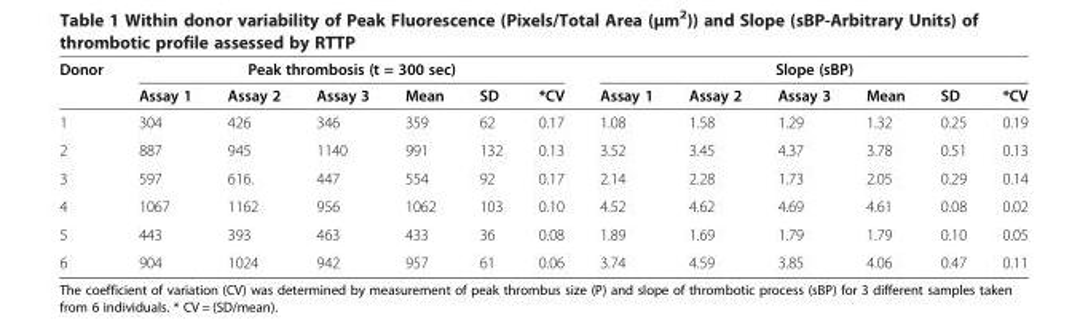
<table><thead><tr><td rowspan="2">Donor</td><td colspan="6">Peak thrombosis (t = 300 sec)</td><td colspan="6">Slope (sBP)</td></tr><tr><td>Assay 1</td><td>Assay 2</td><td>Assay 3</td><td>Mean</td><td>SD</td><td>*CV</td><td>Assay 1</td><td>Assay 2</td><td>Assay 3</td><td>Mean</td><td>SD</td><td>*CV</td></tr></thead><tbody><tr><td>1</td><td>304</td><td>426</td><td>346</td><td>359</td><td>62</td><td>0.17</td><td>1.08</td><td>1.58</td><td>1.29</td><td>1.32</td><td>0.25</td><td>0.19</td></tr><tr><td>2</td><td>887</td><td>945</td><td>1140</td><td>991</td><td>132</td><td>0.13</td><td>3.52</td><td>3.45</td><td>4.37</td><td>3.78</td><td>0.51</td><td>0.13</td></tr><tr><td>3</td><td>597</td><td>616.</td><td>447</td><td>554</td><td>92</td><td>0.17</td><td>2.14</td><td>2.28</td><td>1.73</td><td>2.05</td><td>0.29</td><td>0.14</td></tr><tr><td>4</td><td>1067</td><td>1162</td><td>956</td><td>1062</td><td>103</td><td>0.10</td><td>4.52</td><td>4.62</td><td>4.69</td><td>4.61</td><td>0.08</td><td>0.02</td></tr><tr><td>5</td><td>443</td><td>393</td><td>463</td><td>433</td><td>36</td><td>0.08</td><td>1.89</td><td>1.69</td><td>1.79</td><td>1.79</td><td>0.10</td><td>0.05</td></tr><tr><td>6</td><td>904</td><td>1024</td><td>942</td><td>957</td><td>61</td><td>0.06</td><td>3.74</td><td>4.59</td><td>3.85</td><td>4.06</td><td>0.47</td><td>0.11</td></tr></tbody></table>